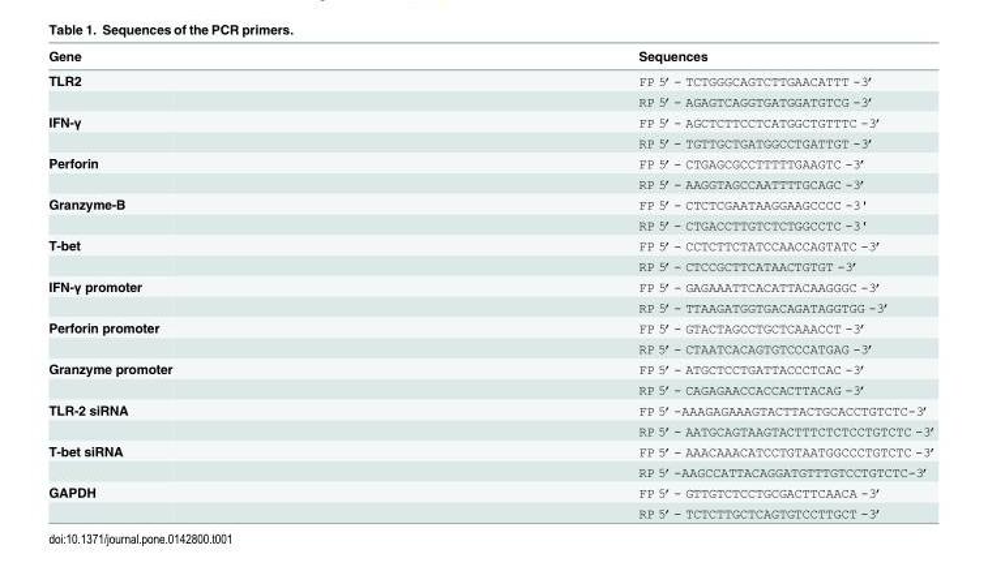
<table><thead><tr><td>Gene</td><td>Sequences</td></tr></thead><tbody><tr><td rowspan="2">TLR2</td><td>FP 5’- TCTGGGCAGTCTTGAACATTT -3’</td></tr><tr><td>RP 5’- AGAGTCAGGTGATGGATGTCG -3’</td></tr><tr><td rowspan="2">IFN-γ</td><td>FP 5’- AGCTCTTCCTCATGGCTGTTTC -3’</td></tr><tr><td>RP 5’- TGTTGCTGATGGCCTGATTGT -3’</td></tr><tr><td rowspan="2">Perforin</td><td>FP 5’- CTGAGCGCCTTTTTGAAGTC -3’</td></tr><tr><td>RP 5’- AAGGTAGCCAATTTTGCAGC -3’</td></tr><tr><td rowspan="2">Granzyme-B</td><td>FP 5’- CTCTCGAATAAGGAAGCCCC -3&#x27;</td></tr><tr><td>RP 5’- CTGACCTTGTCTCTGGCCTC -3&#x27;</td></tr><tr><td rowspan="2">T-bet</td><td>FP 5’- CCTCTTCTATCCAACCAGTATC -3’</td></tr><tr><td>RP 5’- CTCCGCTTCATAACTGTGT -3’</td></tr><tr><td rowspan="2">IFN-γ promoter</td><td>FP 5’- GAGAAATTCACATTACAAGGGC -3’</td></tr><tr><td>RP 5’- TTAAGATGGTGACAGATAGGTGG -3’</td></tr><tr><td rowspan="2">Perforin promoter</td><td>FP 5’- GTACTAGCCTGCTCAAACCT -3’</td></tr><tr><td>RP 5’- CTAATCACAGTGTCCCATGAG -3’</td></tr><tr><td rowspan="2">Granzyme promoter</td><td>FP 5’- ATGCTCCTGATTACCCTCAC -3’</td></tr><tr><td>RP 5’- CAGAGAACCACCACTTACAG -3’</td></tr><tr><td rowspan="2">TLR-2 siRNA</td><td>FP 5’-AAAGAGAAAGTACTTACTGCACCTGTCTC-3’</td></tr><tr><td>RP 5’- AATGCAGTAAGTACTTTCTCTCCTGTCTC -3’</td></tr><tr><td rowspan="2">T-bet siRNA</td><td>FP 5’- AAACAAACATCCTGTAATGGCCCTGTCTC -3’</td></tr><tr><td>RP 5’-AAGCCATTACAGGATGTTTGTCCTGTCTC-3’</td></tr><tr><td rowspan="2">GAPDH</td><td>FP 5’- GTTGTCTCCTGCGACTTCAACA -3’</td></tr><tr><td>RP 5’- TCTCTTGCTCAGTGTCCTTGCT -3’</td></tr></tbody></table>